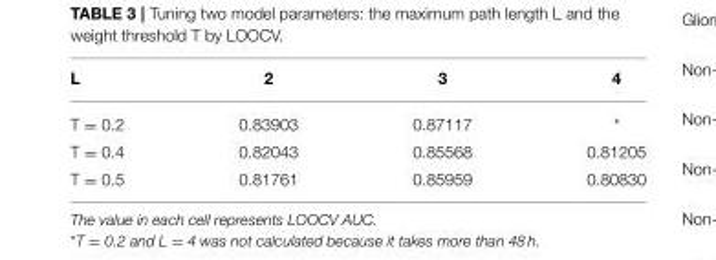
<table><thead><tr><td>L</td><td>2</td><td>3</td><td>4</td></tr></thead><tbody><tr><td>T = 0.2</td><td>0.83903</td><td>0.87117</td><td>*</td></tr><tr><td>T = 0.4</td><td>0.82043</td><td>0.85568</td><td>0.81205</td></tr><tr><td>T = 0.5</td><td>0.81761</td><td>0.85959</td><td>0.80830</td></tr></tbody></table>